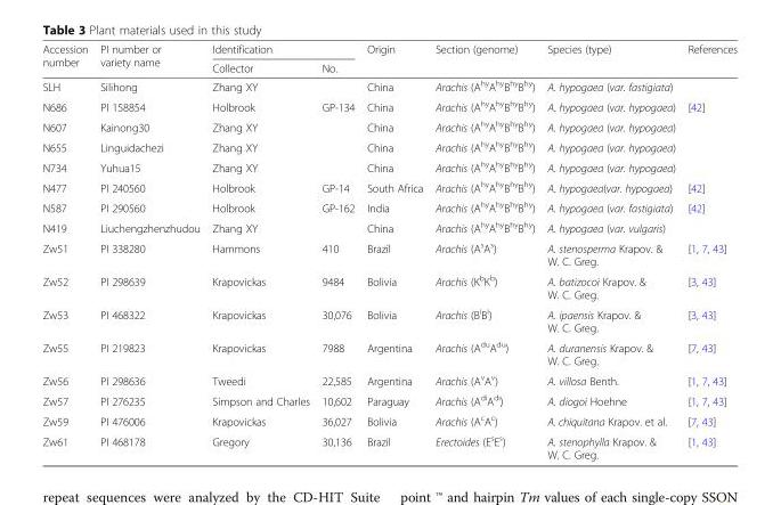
<table><thead><tr><td rowspan="2">Accession number</td><td rowspan="2">PI number or variety name</td><td colspan="2">Identification</td><td rowspan="2">Origin</td><td rowspan="2">Section (genome)</td><td rowspan="2">Species (type)</td><td rowspan="2">References</td></tr><tr><td>Collector</td><td>No.</td></tr></thead><tbody><tr><td>SLH</td><td>Silihong</td><td>Zhang XY</td><td></td><td>China</td><td>Arachis (A<sup>hy</sup>A<sup>hy</sup>B<sup>hy</sup>B<sup>hy</sup>)</td><td>A. hypogaea (var. fastigiata)</td><td></td></tr><tr><td>N686</td><td>PI 158854</td><td>Holbrook</td><td>GP-134</td><td>China</td><td>Arachis (A<sup>hy</sup>A<sup>hy</sup>B<sup>hy</sup>B<sup>hy</sup>)</td><td>A. hypogaea (var. hypogaea)</td><td>[42]</td></tr><tr><td>N607</td><td>Kainong30</td><td>Zhang XY</td><td></td><td>China</td><td>Arachis (A<sup>hy</sup>A<sup>hy</sup>B<sup>hy</sup>B<sup>hy</sup>)</td><td>A. hypogaea (var. hypogaea)</td><td></td></tr><tr><td>N655</td><td>Linguidachezi</td><td>Zhang XY</td><td></td><td>China</td><td>Arachis (A<sup>hy</sup>A<sup>hy</sup>B<sup>hy</sup>B<sup>hy</sup>)</td><td>A. hypogaea (var. hypogaea)</td><td></td></tr><tr><td>N734</td><td>Yuhua15</td><td>Zhang XY</td><td></td><td>China</td><td>Arachis (A<sup>hy</sup>A<sup>hy</sup>B<sup>hy</sup>B<sup>hy</sup>)</td><td>A. hypogaea (var. hypogaea)</td><td></td></tr><tr><td>N477</td><td>PI 240560</td><td>Holbrook</td><td>GP-14</td><td>South Africa</td><td>Arachis (A<sup>hy</sup>A<sup>hy</sup>B<sup>hy</sup>B<sup>hy</sup>)</td><td>A. hypogaea(var. hypogaea)</td><td>[42]</td></tr><tr><td>N587</td><td>PI 290560</td><td>Holbrook</td><td>GP-162</td><td>India</td><td>Arachis (A<sup>hy</sup>A<sup>hy</sup>B<sup>hy</sup>B<sup>hy</sup>)</td><td>A. hypogaea (var. fastigiata)</td><td>[42]</td></tr><tr><td>N419</td><td>Liuchengzhenzhudou</td><td>Zhang XY</td><td></td><td>China</td><td>Arachis (A<sup>hy</sup>A<sup>hy</sup>B<sup>hy</sup>B<sup>hy</sup>)</td><td>A. hypogaea (var. vulgaris)</td><td></td></tr><tr><td>Zw51</td><td>PI 338280</td><td>Hammons</td><td>410</td><td>Brazil</td><td>Arachis (A<sup>s</sup>A<sup>s</sup>)</td><td>A. stenosperma Krapov. &amp; W. C. Greg.</td><td>[1, 7, 43]</td></tr><tr><td>Zw52</td><td>PI 298639</td><td>Krapovickas</td><td>9484</td><td>Bolivia</td><td>Arachis (K<sup>b</sup>K<sup>b</sup>)</td><td>A. batizocoi Krapov. &amp; W. C. Greg.</td><td>[3, 43]</td></tr><tr><td>Zw53</td><td>PI 468322</td><td>Krapovickas</td><td>30,076</td><td>Bolivia</td><td>Arachis (B<sup>i</sup>B<sup>i</sup>)</td><td>A. ipaensis Krapov. &amp; W. C. Greg.</td><td>[3, 43]</td></tr><tr><td>Zw55</td><td>PI 219823</td><td>Krapovickas</td><td>7988</td><td>Argentina</td><td>Arachis (A<sup>du</sup>A<sup>du</sup>)</td><td>A. duranensis Krapov. &amp; W. C. Greg.</td><td>[7, 43]</td></tr><tr><td>Zw56</td><td>PI 298636</td><td>Tweedi</td><td>22,585</td><td>Argentina</td><td>Arachis (A<sup>v</sup>A<sup>v</sup>)</td><td>A. villosa Benth.</td><td>[1, 7, 43]</td></tr><tr><td>Zw57</td><td>PI 276235</td><td>Simpson and Charles</td><td>10,602</td><td>Paraguay</td><td>Arachis (A<sup>di</sup>A<sup>di</sup>)</td><td>A. diogoi Hoehne</td><td>[1, 7, 43]</td></tr><tr><td>Zw59</td><td>PI 476006</td><td>Krapovickas</td><td>36,027</td><td>Bolivia</td><td>Arachis (A<sup>c</sup>A<sup>c</sup>)</td><td>A. chiquitana Krapov. et al.</td><td>[7, 43]</td></tr><tr><td>Zw61</td><td>PI 468178</td><td>Gregory</td><td>30,136</td><td>Brazil</td><td>Erectoides (E<sup>s</sup>E<sup>s</sup>)</td><td>A. stenophylla Krapov. &amp; W. C. Greg.</td><td>[1, 43]</td></tr></tbody></table>